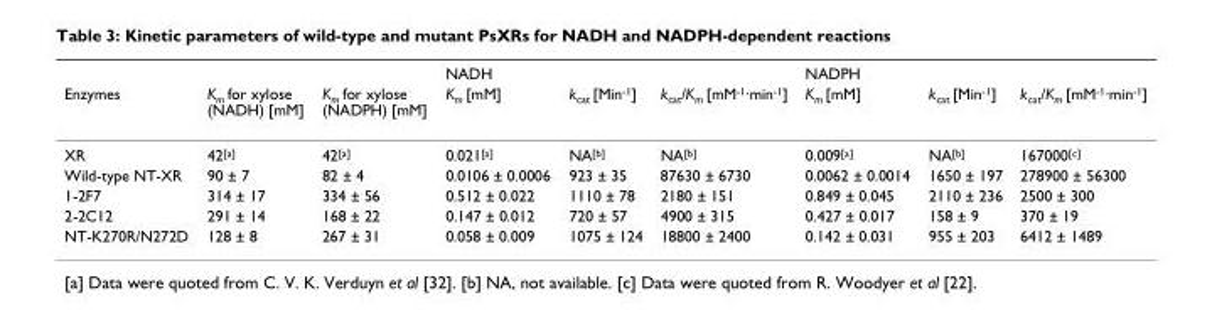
<table><thead><tr><td rowspan="2">Enzymes</td><td rowspan="2">K<sub>m</sub> for xylose (NADH) [mM]</td><td rowspan="2">K<sub>m</sub> for xylose (NADPH) [mM]</td><td colspan="3">NADH</td><td colspan="3">NADPH</td></tr><tr><td>K<sub>m</sub> [mM]</td><td>k<sub>cat</sub> [Min<sup>-1</sup>]</td><td>k<sub>cat</sub>/K<sub>m</sub> [mM<sup>-1</sup>·min<sup>-1</sup>]</td><td>K<sub>m</sub> [mM]</td><td>k<sub>cat</sub> [Min<sup>-1</sup>]</td><td>k<sub>cat</sub>/K<sub>m</sub> [mM<sup>-1</sup>·min<sup>-1</sup>]</td></tr></thead><tbody><tr><td>XR</td><td>42<sup>[a]</sup></td><td>42<sup>[a]</sup></td><td>0.021<sup>[a]</sup></td><td>NA<sup>[b]</sup></td><td>NA<sup>[b]</sup></td><td>0.009<sup>[a]</sup></td><td>NA<sup>[b]</sup></td><td>167000<sup>[c]</sup></td></tr><tr><td>Wild-type NT-XR</td><td>90 ± 7</td><td>82 ± 4</td><td>0.0106 ± 0.0006</td><td>923 ± 35</td><td>87630 ± 6730</td><td>0.0062 ± 0.0014</td><td>1650 ± 197</td><td>278900 ± 56300</td></tr><tr><td>1-2F7</td><td>314 ± 17</td><td>334 ± 56</td><td>0.512 ± 0.022</td><td>1110 ± 78</td><td>2180 ± 151</td><td>0.849 ± 0.045</td><td>2110 ± 236</td><td>2500 ± 300</td></tr><tr><td>2-2C12</td><td>291 ± 14</td><td>168 ± 22</td><td>0.147 ± 0.012</td><td>720 ± 57</td><td>4900 ± 315</td><td>0.427 ± 0.017</td><td>158 ± 9</td><td>370 ± 19</td></tr><tr><td>NT-K270R/N272D</td><td>128 ± 8</td><td>267 ± 31</td><td>0.058 ± 0.009</td><td>1075 ± 124</td><td>18800 ± 2400</td><td>0.142 ± 0.031</td><td>955 ± 203</td><td>6412 ± 1489</td></tr></tbody></table>